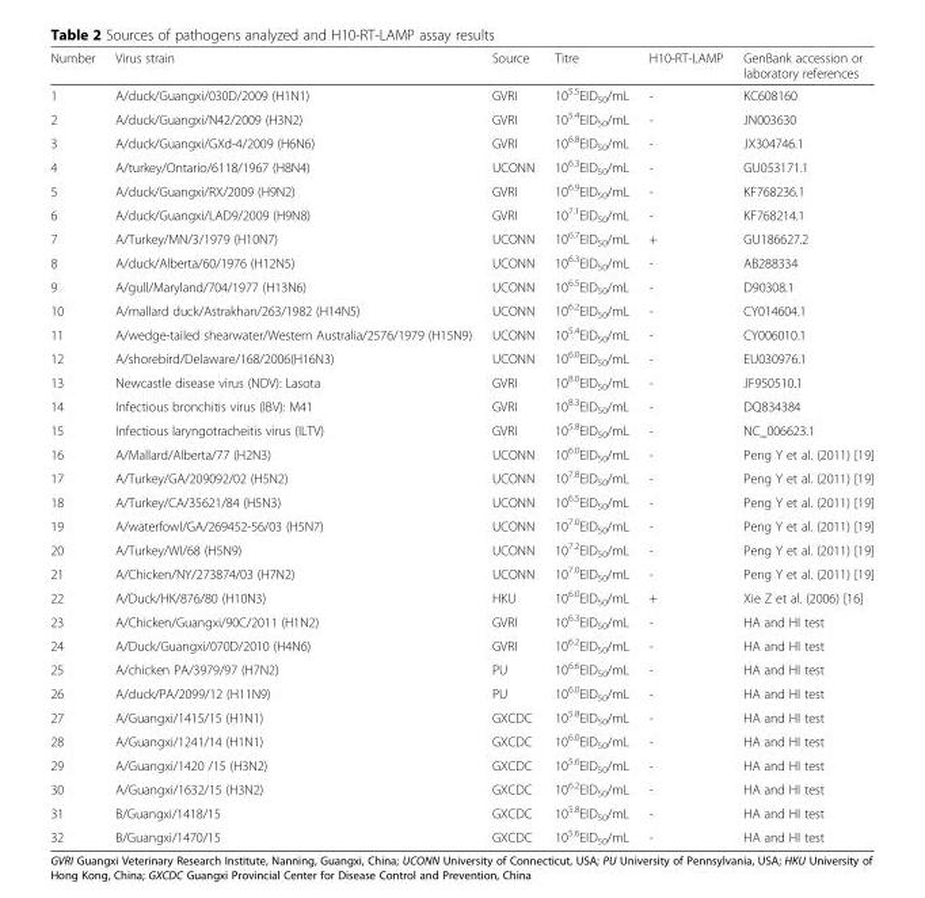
<table><thead><tr><td>Number</td><td>Virus strain</td><td>Source</td><td>Titre</td><td>H10-RT-LAMP</td><td>GenBank accession or laboratory references</td></tr></thead><tbody><tr><td>1</td><td>A/duck/Guangxi/030D/2009 (H1N1)</td><td>GVRI</td><td>10<sup>5.5</sup>EID<sub>50</sub>/mL</td><td>-</td><td>KC608160</td></tr><tr><td>2</td><td>A/duck/Guangxi/N42/2009 (H3N2)</td><td>GVRI</td><td>10<sup>5.4</sup>EID<sub>50</sub>/mL</td><td>-</td><td>JN003630</td></tr><tr><td>3</td><td>A/duck/Guangxi/GXd-4/2009 (H6N6)</td><td>GVRI</td><td>10<sup>6.8</sup>EID<sub>50</sub>/mL</td><td>-</td><td>JX304746.1</td></tr><tr><td>4</td><td>A/turkey/Ontario/6118/1967 (H8N4)</td><td>UCONN</td><td>10<sup>6.3</sup>EID<sub>50</sub>/mL</td><td>-</td><td>GU053171.1</td></tr><tr><td>5</td><td>A/duck/Guangxi/RX/2009 (H9N2)</td><td>GVRI</td><td>10<sup>6.9</sup>EID<sub>50</sub>/mL</td><td>-</td><td>KF768236.1</td></tr><tr><td>6</td><td>A/duck/Guangxi/LAD9/2009 (H9N8)</td><td>GVRI</td><td>10<sup>7.1</sup>EID<sub>50</sub>/mL</td><td>-</td><td>KF768214.1</td></tr><tr><td>7</td><td>A/Turkey/MN/3/1979 (H10N7)</td><td>UCONN</td><td>10<sup>6.7</sup>EID<sub>50</sub>/mL</td><td>+</td><td>GU186627.2</td></tr><tr><td>8</td><td>A/duck/Alberta/60/1976 (H12N5)</td><td>UCONN</td><td>10<sup>6.3</sup>EID<sub>50</sub>/mL</td><td>-</td><td>AB288334</td></tr><tr><td>9</td><td>A/gull/Maryland/704/1977 (H13N6)</td><td>UCONN</td><td>10<sup>6.5</sup>EID<sub>50</sub>/mL</td><td>-</td><td>D90308.1</td></tr><tr><td>10</td><td>A/mallard duck/Astrakhan/263/1982 (H14N5)</td><td>UCONN</td><td>10<sup>6.2</sup>EID<sub>50</sub>/mL</td><td>-</td><td>CY014604.1</td></tr><tr><td>11</td><td>A/wedge-tailed shearwater/Western Australia/2576/1979 (H15N9)</td><td>UCONN</td><td>10<sup>5.4</sup>EID<sub>50</sub>/mL</td><td>-</td><td>CY006010.1</td></tr><tr><td>12</td><td>A/shorebird/Delaware/168/2006(H16N3)</td><td>UCONN</td><td>10<sup>6.0</sup>EID<sub>50</sub>/mL</td><td>-</td><td>EU030976.1</td></tr><tr><td>13</td><td>Newcastle disease virus (NDV): Lasota</td><td>GVRI</td><td>10<sup>8.0</sup>EID<sub>50</sub>/mL</td><td>-</td><td>JF950510.1</td></tr><tr><td>14</td><td>Infectious bronchitis virus (IBV): M41</td><td>GVRI</td><td>10<sup>8.3</sup>EID<sub>50</sub>/mL</td><td>-</td><td>DQ834384</td></tr><tr><td>15</td><td>Infectious laryngotracheitis virus (ILTV)</td><td>GVRI</td><td>10<sup>5.8</sup>EID<sub>50</sub>/mL</td><td>-</td><td>NC_006623.1</td></tr><tr><td>16</td><td>A/Mallard/Alberta/77 (H2N3)</td><td>UCONN</td><td>10<sup>6.0</sup>EID<sub>50</sub>/mL</td><td>-</td><td>Peng Y et al. (2011) [19]</td></tr><tr><td>17</td><td>A/Turkey/GA/209092/02 (H5N2)</td><td>UCONN</td><td>10<sup>7.8</sup>EID<sub>50</sub>/mL</td><td>-</td><td>Peng Y et al. (2011) [19]</td></tr><tr><td>18</td><td>A/Turkey/CA/35621/84 (H5N3)</td><td>UCONN</td><td>10<sup>6.5</sup>EID<sub>50</sub>/mL</td><td>-</td><td>Peng Y et al. (2011) [19]</td></tr><tr><td>19</td><td>A/waterfowl/GA/269452-56/03 (H5N7)</td><td>UCONN</td><td>10<sup>7.0</sup>EID<sub>50</sub>/mL</td><td>-</td><td>Peng Y et al. (2011) [19]</td></tr><tr><td>20</td><td>A/Turkey/WI/68 (H5N9)</td><td>UCONN</td><td>10<sup>7.2</sup>EID<sub>50</sub>/mL</td><td>-</td><td>Peng Y et al. (2011) [19]</td></tr><tr><td>21</td><td>A/Chicken/NY/273874/03 (H7N2)</td><td>UCONN</td><td>10<sup>7.0</sup>EID<sub>50</sub>/mL</td><td>-</td><td>Peng Y et al. (2011) [19]</td></tr><tr><td>22</td><td>A/Duck/HK/876/80 (H10N3)</td><td>HKU</td><td>10<sup>6.0</sup>EID<sub>50</sub>/mL</td><td>+</td><td>Xie Z et al. (2006) [16]</td></tr><tr><td>23</td><td>A/Chicken/Guangxi/90C/2011 (H1N2)</td><td>GVRI</td><td>10<sup>6.3</sup>EID<sub>50</sub>/mL</td><td>-</td><td>HA and HI test</td></tr><tr><td>24</td><td>A/Duck/Guangxi/070D/2010 (H4N6)</td><td>GVRI</td><td>10<sup>6.2</sup>EID<sub>50</sub>/mL</td><td>-</td><td>HA and HI test</td></tr><tr><td>25</td><td>A/chicken PA/3979/97 (H7N2)</td><td>PU</td><td>10<sup>6.6</sup>EID<sub>50</sub>/mL</td><td>-</td><td>HA and HI test</td></tr><tr><td>26</td><td>A/duck/PA/2099/12 (H11N9)</td><td>PU</td><td>10<sup>6.0</sup>EID<sub>50</sub>/mL</td><td>-</td><td>HA and HI test</td></tr><tr><td>27</td><td>A/Guangxi/1415/15 (H1N1)</td><td>GXCDC</td><td>10<sup>5.8</sup>EID<sub>50</sub>/mL</td><td>-</td><td>HA and HI test</td></tr><tr><td>28</td><td>A/Guangxi/1241/14 (H1N1)</td><td>GXCDC</td><td>10<sup>6.0</sup>EID<sub>50</sub>/mL</td><td>-</td><td>HA and HI test</td></tr><tr><td>29</td><td>A/Guangxi/1420 /15 (H3N2)</td><td>GXCDC</td><td>10<sup>5.6</sup>EID<sub>50</sub>/mL</td><td>-</td><td>HA and HI test</td></tr><tr><td>30</td><td>A/Guangxi/1632/15 (H3N2)</td><td>GXCDC</td><td>10<sup>6.2</sup>EID<sub>50</sub>/mL</td><td>-</td><td>HA and HI test</td></tr><tr><td>31</td><td>B/Guangxi/1418/15</td><td>GXCDC</td><td>10<sup>5.8</sup>EID<sub>50</sub>/mL</td><td>-</td><td>HA and HI test</td></tr><tr><td>32</td><td>B/Guangxi/1470/15</td><td>GXCDC</td><td>10<sup>5.6</sup>EID<sub>50</sub>/mL</td><td>-</td><td>HA and HI test</td></tr></tbody></table>